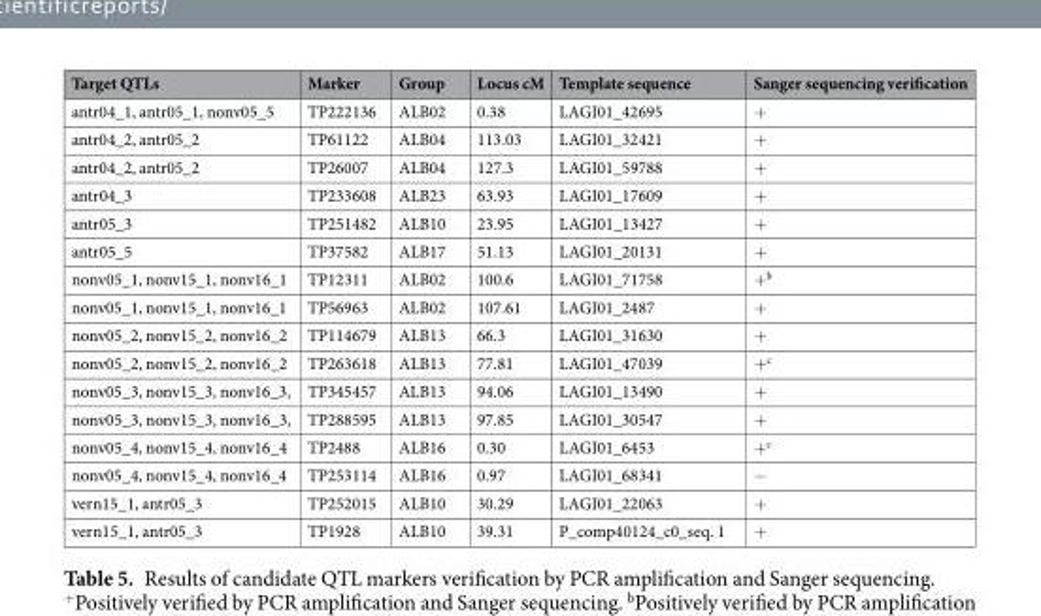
<table><thead><tr><td>Target QTLs</td><td>Marker</td><td>Group</td><td>Locus cM</td><td>Template sequence</td><td>Sanger sequencing verification</td></tr></thead><tbody><tr><td>antr04_1, antr05_1, nonv05_5</td><td>TP222136</td><td>ALB02</td><td>0.38</td><td>LAGI01_42695</td><td>+</td></tr><tr><td>antr04_2, antr05_2</td><td>TP61122</td><td>ALB04</td><td>113.03</td><td>LAGI01_32421</td><td>+</td></tr><tr><td>antr04_2, antr05_2</td><td>TP26007</td><td>ALB04</td><td>127.3</td><td>LAGI01_59788</td><td>+</td></tr><tr><td>antr04_3</td><td>TP233608</td><td>ALB23</td><td>63.93</td><td>LAGI01_17609</td><td>+</td></tr><tr><td>antr05_3</td><td>TP251482</td><td>ALB10</td><td>23.95</td><td>LAGI01_13427</td><td>+</td></tr><tr><td>antr05_5</td><td>TP37582</td><td>ALB17</td><td>51.13</td><td>LAGI01_20131</td><td>+</td></tr><tr><td>nonv05_1, nonv15_1, nonv16_1</td><td>TP12311</td><td>ALB02</td><td>100.6</td><td>LAGI01_71758</td><td>+<sup>b</sup></td></tr><tr><td>nonv05_1, nonv15_1, nonv16_1</td><td>TP56963</td><td>ALB02</td><td>107.61</td><td>LAGI01_2487</td><td>+</td></tr><tr><td>nonv05_2, nonv15_2, nonv16_2</td><td>TP114679</td><td>ALB13</td><td>66.3</td><td>LAGI01_31630</td><td>+</td></tr><tr><td>nonv05_2, nonv15_2, nonv16_2</td><td>TP263618</td><td>ALB13</td><td>77.81</td><td>LAGI01_47039</td><td>+<sup>c</sup></td></tr><tr><td>nonv05_3, nonv15_3, nonv16_3,</td><td>TP345457</td><td>ALB13</td><td>94.06</td><td>LAGI01_13490</td><td>+</td></tr><tr><td>nonv05_3, nonv15_3, nonv16_3,</td><td>TP288595</td><td>ALB13</td><td>97.85</td><td>LAGI01_30547</td><td>+</td></tr><tr><td>nonv05_4, nonv15_4, nonv16_4</td><td>TP2488</td><td>ALB16</td><td>0.30</td><td>LAGI01_6453</td><td>+<sup>c</sup></td></tr><tr><td>nonv05_4, nonv15_4, nonv16_4</td><td>TP253114</td><td>ALB16</td><td>0.97</td><td>LAGI01_68341</td><td>−</td></tr><tr><td>vern15_1, antr05_3</td><td>TP252015</td><td>ALB10</td><td>30.29</td><td>LAGI01_22063</td><td>+</td></tr><tr><td>vern15_1, antr05_3</td><td>TP1928</td><td>ALB10</td><td>39.31</td><td>P_comp40124_c0_seq. 1</td><td>+</td></tr></tbody></table>